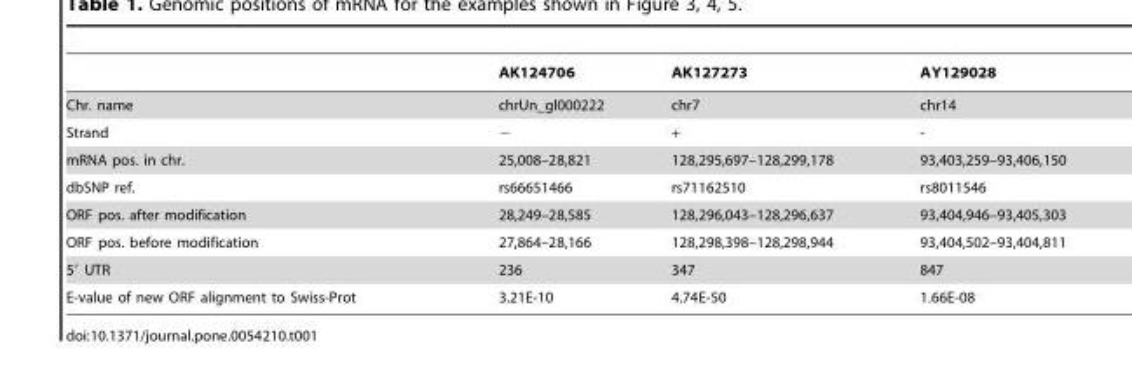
<table><thead><tr><td></td><td>AK124706</td><td>AK127273</td><td>AY129028</td></tr></thead><tbody><tr><td>Chr. name</td><td>chrUn_gl000222</td><td>chr7</td><td>chr14</td></tr><tr><td>Strand</td><td>−</td><td>+</td><td>-</td></tr><tr><td>mRNA pos. in chr.</td><td>25,008–28,821</td><td>128,295,697–128,299,178</td><td>93,403,259–93,406,150</td></tr><tr><td>dbSNP ref.</td><td>rs66651466</td><td>rs71162510</td><td>rs8011546</td></tr><tr><td>ORF pos. after modification</td><td>28,249–28,585</td><td>128,296,043–128,296,637</td><td>93,404,946–93,405,303</td></tr><tr><td>ORF pos. before modification</td><td>27,864–28,166</td><td>128,298,398–128,298,944</td><td>93,404,502–93,404,811</td></tr><tr><td>5′ UTR</td><td>236</td><td>347</td><td>847</td></tr><tr><td>E-value of new ORF alignment to Swiss-Prot</td><td>3.21E-10</td><td>4.74E-50</td><td>1.66E-08</td></tr></tbody></table>